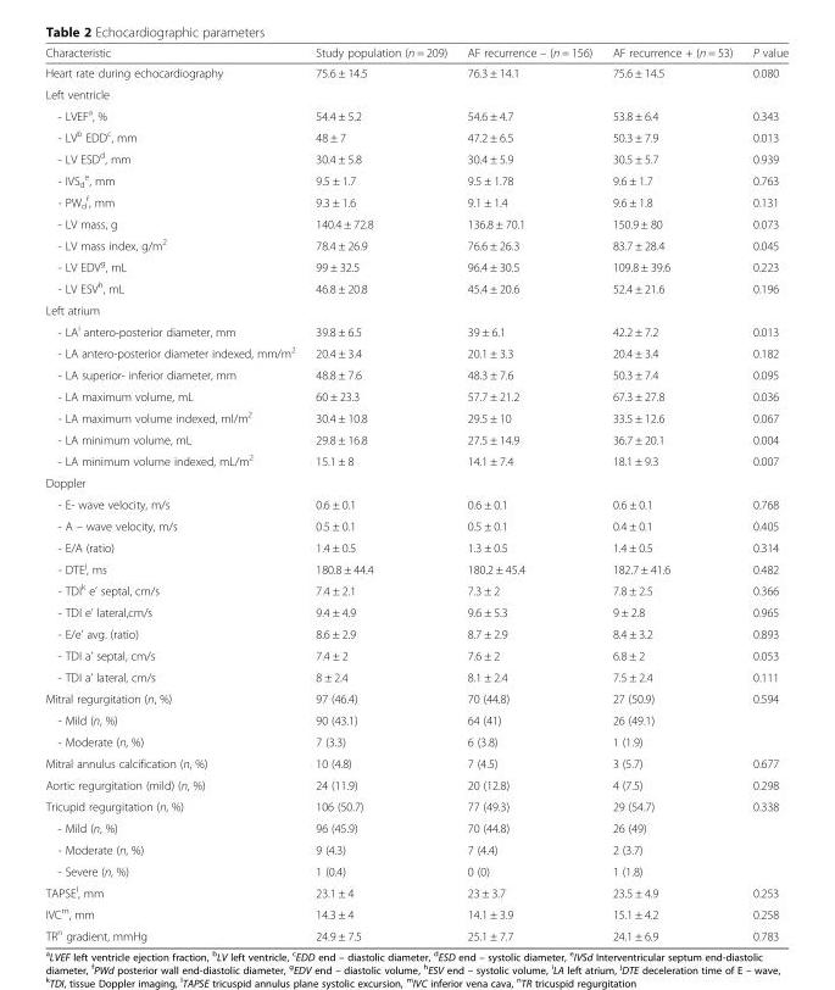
<table><thead><tr><td>Characteristic</td><td>Study population (n = 209)</td><td>AF recurrence – (n = 156)</td><td>AF recurrence + (n = 53)</td><td>P value</td></tr></thead><tbody><tr><td>Heart rate during echocardiography</td><td>75.6 ± 14.5</td><td>76.3 ± 14.1</td><td>75.6 ± 14.5</td><td>0.080</td></tr><tr><td colspan="5">Left ventricle</td></tr><tr><td>- LVEF<sup>a</sup>, %</td><td>54.4 ± 5.2</td><td>54.6 ± 4.7</td><td>53.8 ± 6.4</td><td>0.343</td></tr><tr><td>- LV<sup>b</sup> EDD<sup>c</sup>, mm</td><td>48 ± 7</td><td>47.2 ± 6.5</td><td>50.3 ± 7.9</td><td>0.013</td></tr><tr><td>- LV ESD<sup>d</sup>, mm</td><td>30.4 ± 5.8</td><td>30.4 ± 5.9</td><td>30.5 ± 5.7</td><td>0.939</td></tr><tr><td>- IVS<sub>d</sub> <sup>e</sup>, mm</td><td>9.5 ± 1.7</td><td>9.5 ± 1.78</td><td>9.6 ± 1.7</td><td>0.763</td></tr><tr><td>- PW<sub>d</sub> <sup>f</sup>, mm</td><td>9.3 ± 1.6</td><td>9.1 ± 1.4</td><td>9.6 ± 1.8</td><td>0.131</td></tr><tr><td>- LV mass, g</td><td>140.4 ± 72.8</td><td>136.8 ± 70.1</td><td>150.9 ± 80</td><td>0.073</td></tr><tr><td>- LV mass index, g/m<sup>2</sup></td><td>78.4 ± 26.9</td><td>76.6 ± 26.3</td><td>83.7 ± 28.4</td><td>0.045</td></tr><tr><td>- LV EDV<sup>g</sup>, mL</td><td>99 ± 32.5</td><td>96.4 ± 30.5</td><td>109.8 ± 39.6</td><td>0.223</td></tr><tr><td>- LV ESV<sup>h</sup>, mL</td><td>46.8 ± 20.8</td><td>45.4 ± 20.6</td><td>52.4 ± 21.6</td><td>0.196</td></tr><tr><td colspan="5">Left atrium</td></tr><tr><td>- LA<sup>i</sup> antero-posterior diameter, mm</td><td>39.8 ± 6.5</td><td>39 ± 6.1</td><td>42.2 ± 7.2</td><td>0.013</td></tr><tr><td>- LA antero-posterior diameter indexed, mm/m<sup>2</sup></td><td>20.4 ± 3.4</td><td>20.1 ± 3.3</td><td>20.4 ± 3.4</td><td>0.182</td></tr><tr><td>- LA superior- inferior diameter, mm</td><td>48.8 ± 7.6</td><td>48.3 ± 7.6</td><td>50.3 ± 7.4</td><td>0.095</td></tr><tr><td>- LA maximum volume, mL</td><td>60 ± 23.3</td><td>57.7 ± 21.2</td><td>67.3 ± 27.8</td><td>0.036</td></tr><tr><td>- LA maximum volume indexed, ml/m<sup>2</sup></td><td>30.4 ± 10.8</td><td>29.5 ± 10</td><td>33.5 ± 12.6</td><td>0.067</td></tr><tr><td>- LA minimum volume, mL</td><td>29.8 ± 16.8</td><td>27.5 ± 14.9</td><td>36.7 ± 20.1</td><td>0.004</td></tr><tr><td>- LA minimum volume indexed, mL/m<sup>2</sup></td><td>15.1 ± 8</td><td>14.1 ± 7.4</td><td>18.1 ± 9.3</td><td>0.007</td></tr><tr><td colspan="5">Doppler</td></tr><tr><td>- E- wave velocity, m/s</td><td>0.6 ± 0.1</td><td>0.6 ± 0.1</td><td>0.6 ± 0.1</td><td>0.768</td></tr><tr><td>- A – wave velocity, m/s</td><td>0.5 ± 0.1</td><td>0.5 ± 0.1</td><td>0.4 ± 0.1</td><td>0.405</td></tr><tr><td>- E/A (ratio)</td><td>1.4 ± 0.5</td><td>1.3 ± 0.5</td><td>1.4 ± 0.5</td><td>0.314</td></tr><tr><td>- DTE<sup>j</sup>, ms</td><td>180.8 ± 44.4</td><td>180.2 ± 45.4</td><td>182.7 ± 41.6</td><td>0.482</td></tr><tr><td>- TDI<sup>k</sup> e’ septal, cm/s</td><td>7.4 ± 2.1</td><td>7.3 ± 2</td><td>7.8 ± 2.5</td><td>0.366</td></tr><tr><td>- TDI e’ lateral,cm/s</td><td>9.4 ± 4.9</td><td>9.6 ± 5.3</td><td>9 ± 2.8</td><td>0.965</td></tr><tr><td>- E/e’ avg. (ratio)</td><td>8.6 ± 2.9</td><td>8.7 ± 2.9</td><td>8.4 ± 3.2</td><td>0.893</td></tr><tr><td>- TDI a’ septal, cm/s</td><td>7.4 ± 2</td><td>7.6 ± 2</td><td>6.8 ± 2</td><td>0.053</td></tr><tr><td>- TDI a’ lateral, cm/s</td><td>8 ± 2.4</td><td>8.1 ± 2.4</td><td>7.5 ± 2.4</td><td>0.111</td></tr><tr><td>Mitral regurgitation (n, %)</td><td>97 (46.4)</td><td>70 (44.8)</td><td>27 (50.9)</td><td>0.594</td></tr><tr><td>- Mild (n, %)</td><td>90 (43.1)</td><td>64 (41)</td><td>26 (49.1)</td><td></td></tr><tr><td>- Moderate (n, %)</td><td>7 (3.3)</td><td>6 (3.8)</td><td>1 (1.9)</td><td></td></tr><tr><td>Mitral annulus calcification (n, %)</td><td>10 (4.8)</td><td>7 (4.5)</td><td>3 (5.7)</td><td>0.677</td></tr><tr><td>Aortic regurgitation (mild) (n, %)</td><td>24 (11.9)</td><td>20 (12.8)</td><td>4 (7.5)</td><td>0.298</td></tr><tr><td>Tricupid regurgitation (n, %)</td><td>106 (50.7)</td><td>77 (49.3)</td><td>29 (54.7)</td><td>0.338</td></tr><tr><td>- Mild (n, %)</td><td>96 (45.9)</td><td>70 (44.8)</td><td>26 (49)</td><td></td></tr><tr><td>- Moderate (n, %)</td><td>9 (4.3)</td><td>7 (4.4)</td><td>2 (3.7)</td><td></td></tr><tr><td>- Severe (n, %)</td><td>1 (0.4)</td><td>0 (0)</td><td>1 (1.8)</td><td></td></tr><tr><td>TAPSE<sup>l</sup>, mm</td><td>23.1 ± 4</td><td>23 ± 3.7</td><td>23.5 ± 4.9</td><td>0.253</td></tr><tr><td>IVC<sup>m</sup>, mm</td><td>14.3 ± 4</td><td>14.1 ± 3.9</td><td>15.1 ± 4.2</td><td>0.258</td></tr><tr><td>TR<sup>n</sup> gradient, mmHg</td><td>24.9 ± 7.5</td><td>25.1 ± 7.7</td><td>24.1 ± 6.9</td><td>0.783</td></tr></tbody></table>